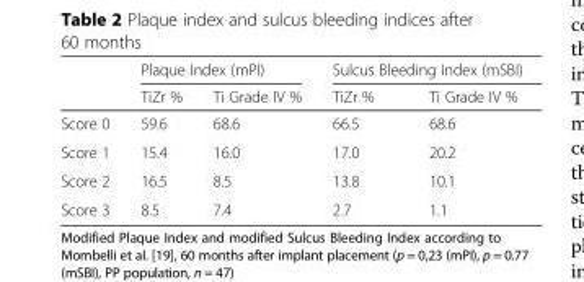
<table><thead><tr><td rowspan="2"></td><td colspan="2">Plaque Index (mPI)</td><td colspan="2">Sulcus Bleeding Index (mSBI)</td></tr><tr><td>TiZr %</td><td>Ti Grade IV %</td><td>TiZr %</td><td>Ti Grade IV %</td></tr></thead><tbody><tr><td>Score 0</td><td>59.6</td><td>68.6</td><td>66.5</td><td>68.6</td></tr><tr><td>Score 1</td><td>15.4</td><td>16.0</td><td>17.0</td><td>20.2</td></tr><tr><td>Score 2</td><td>16.5</td><td>8.5</td><td>13.8</td><td>10.1</td></tr><tr><td>Score 3</td><td>8.5</td><td>7.4</td><td>2.7</td><td>1.1</td></tr></tbody></table>